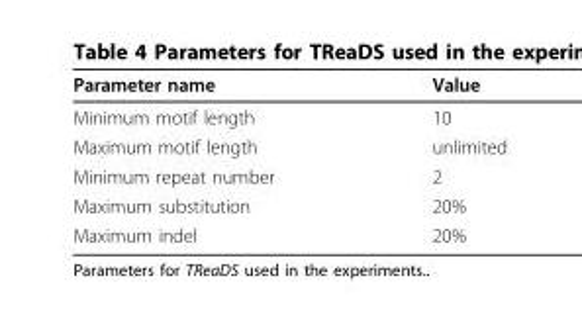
<table><thead><tr><td>Parameter name</td><td>Value</td></tr></thead><tbody><tr><td>Minimum motif length</td><td>10</td></tr><tr><td>Maximum motif length</td><td>unlimited</td></tr><tr><td>Minimum repeat number</td><td>2</td></tr><tr><td>Maximum substitution</td><td>20%</td></tr><tr><td>Maximum indel</td><td>20%</td></tr></tbody></table>